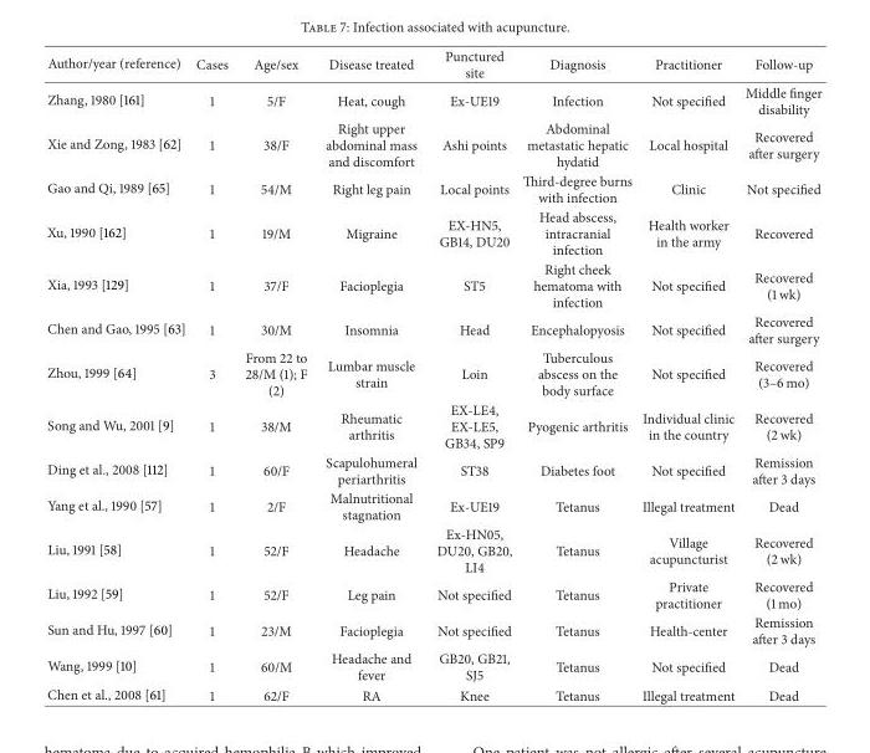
<table><thead><tr><td>Author/year (reference)</td><td>Cases</td><td>Age/sex</td><td>Disease treated</td><td>Punctured site</td><td>Diagnosis</td><td>Practitioner</td><td>Follow-up</td></tr></thead><tbody><tr><td>Zhang, 1980 [161]</td><td>1</td><td>5/F</td><td>Heat, cough</td><td>Ex-UE19</td><td>Infection</td><td>Not specified</td><td>Middle finger disability</td></tr><tr><td>Xie and Zong, 1983 [62]</td><td>1</td><td>38/F</td><td>Right upper abdominal mass and discomfort</td><td>Ashi points</td><td>Abdominal metastatic hepatic hydatid</td><td>Local hospital</td><td>Recovered after surgery</td></tr><tr><td>Gao and Qi, 1989 [65]</td><td>1</td><td>54/M</td><td>Right leg pain</td><td>Local points</td><td>Third-degree burns with infection</td><td>Clinic</td><td>Not specified</td></tr><tr><td>Xu, 1990 [162]</td><td>1</td><td>19/M</td><td>Migraine</td><td>EX-HN5, GB14, DU20</td><td>Head abscess, intracranial infection</td><td>Health worker in the army</td><td>Recovered</td></tr><tr><td>Xia, 1993 [129]</td><td>1</td><td>37/F</td><td>Facioplegia</td><td>ST5</td><td>Right cheek hematoma with infection</td><td>Not specified</td><td>Recovered (1 wk)</td></tr><tr><td>Chen and Gao, 1995 [63]</td><td>1</td><td>30/M</td><td>Insomnia</td><td>Head</td><td>Encephalopyosis</td><td>Not specified</td><td>Recovered after surgery</td></tr><tr><td>Zhou, 1999 [64]</td><td>3</td><td>From 22 to 28/M (1); F (2)</td><td>Lumbar muscle strain</td><td>Loin</td><td>Tuberculous abscess on the body surface</td><td>Not specified</td><td>Recovered (3–6 mo)</td></tr><tr><td>Song and Wu, 2001 [9]</td><td>1</td><td>38/M</td><td>Rheumatic arthritis</td><td>EX-LE4, EX-LE5, GB34, SP9</td><td>Pyogenic arthritis</td><td>Individual clinic in the country</td><td>Recovered (2 wk)</td></tr><tr><td>Ding et al., 2008 [112]</td><td>1</td><td>60/F</td><td>Scapulohumeral periarthritis</td><td>ST38</td><td>Diabetes foot</td><td>Not specified</td><td>Remission after 3 days</td></tr><tr><td>Yang et al., 1990 [57]</td><td>1</td><td>2/F</td><td>Malnutritional stagnation</td><td>Ex-UE19</td><td>Tetanus</td><td>Illegal treatment</td><td>Dead</td></tr><tr><td>Liu, 1991 [58]</td><td>1</td><td>52/F</td><td>Headache</td><td>Ex-HN05, DU20, GB20, LI4</td><td>Tetanus</td><td>Village acupuncturist</td><td>Recovered (2 wk)</td></tr><tr><td>Liu, 1992 [59]</td><td>1</td><td>52/F</td><td>Leg pain</td><td>Not specified</td><td>Tetanus</td><td>Private practitioner</td><td>Recovered (1 mo)</td></tr><tr><td>Sun and Hu, 1997 [60]</td><td>1</td><td>23/M</td><td>Facioplegia</td><td>Not specified</td><td>Tetanus</td><td>Health-center</td><td>Remission after 3 days</td></tr><tr><td>Wang, 1999 [10]</td><td>1</td><td>60/M</td><td>Headache and fever</td><td>GB20, GB21, SJ5</td><td>Tetanus</td><td>Not specified</td><td>Dead</td></tr><tr><td>Chen et al., 2008 [61]</td><td>1</td><td>62/F</td><td>RA</td><td>Knee</td><td>Tetanus</td><td>Illegal treatment</td><td>Dead</td></tr></tbody></table>